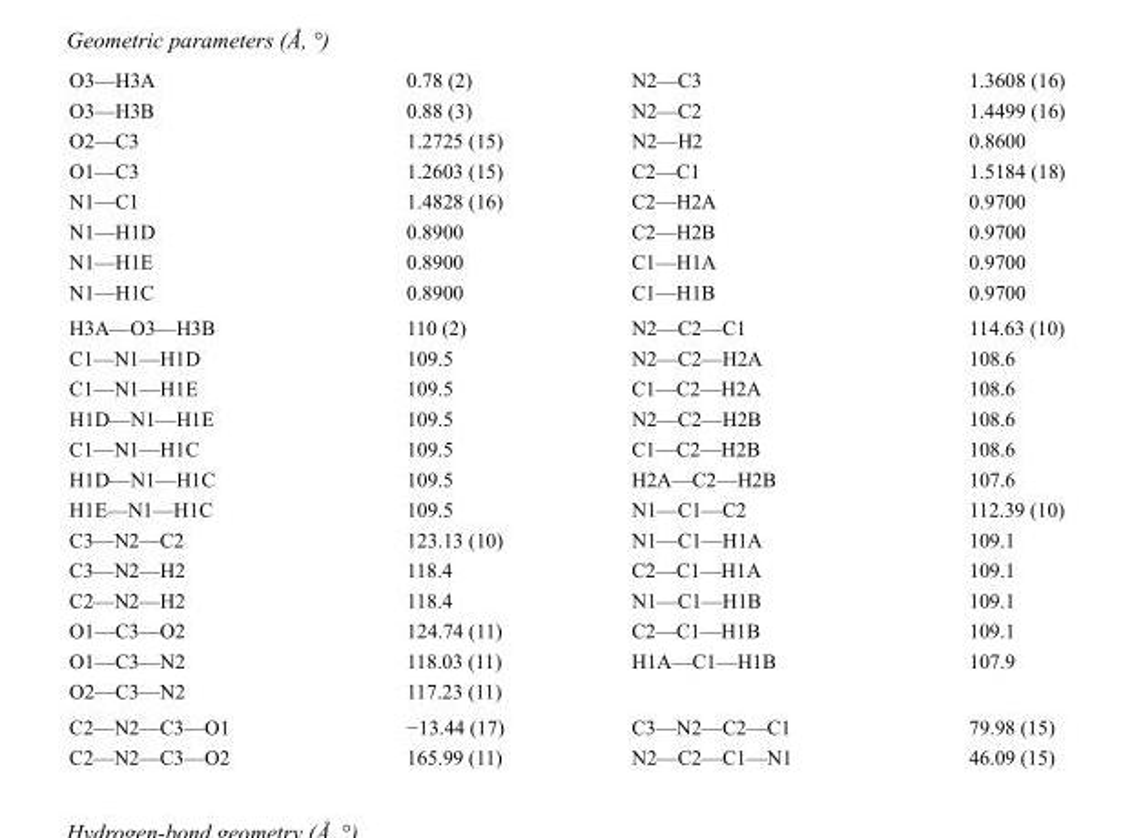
<table><tbody><tr><td>O3—H3A</td><td>0.78 (2)</td><td>N2—C3</td><td>1.3608 (16)</td></tr><tr><td>O3—H3B</td><td>0.88 (3)</td><td>N2—C2</td><td>1.4499 (16)</td></tr><tr><td>O2—C3</td><td>1.2725 (15)</td><td>N2—H2</td><td>0.8600</td></tr><tr><td>O1—C3</td><td>1.2603 (15)</td><td>C2—C1</td><td>1.5184 (18)</td></tr><tr><td>N1—C1</td><td>1.4828 (16)</td><td>C2—H2A</td><td>0.9700</td></tr><tr><td>N1—H1D</td><td>0.8900</td><td>C2—H2B</td><td>0.9700</td></tr><tr><td>N1—H1E</td><td>0.8900</td><td>C1—H1A</td><td>0.9700</td></tr><tr><td>N1—H1C</td><td>0.8900</td><td>C1—H1B</td><td>0.9700</td></tr><tr><td>H3A—O3—H3B</td><td>110 (2)</td><td>N2—C2—C1</td><td>114.63 (10)</td></tr><tr><td>C1—N1—H1D</td><td>109.5</td><td>N2—C2—H2A</td><td>108.6</td></tr><tr><td>C1—N1—H1E</td><td>109.5</td><td>C1—C2—H2A</td><td>108.6</td></tr><tr><td>H1D—N1—H1E</td><td>109.5</td><td>N2—C2—H2B</td><td>108.6</td></tr><tr><td>C1—N1—H1C</td><td>109.5</td><td>C1—C2—H2B</td><td>108.6</td></tr><tr><td>H1D—N1—H1C</td><td>109.5</td><td>H2A—C2—H2B</td><td>107.6</td></tr><tr><td>H1E—N1—H1C</td><td>109.5</td><td>N1—C1—C2</td><td>112.39 (10)</td></tr><tr><td>C3—N2—C2</td><td>123.13 (10)</td><td>N1—C1—H1A</td><td>109.1</td></tr><tr><td>C3—N2—H2</td><td>118.4</td><td>C2—C1—H1A</td><td>109.1</td></tr><tr><td>C2—N2—H2</td><td>118.4</td><td>N1—C1—H1B</td><td>109.1</td></tr><tr><td>O1—C3—O2</td><td>124.74 (11)</td><td>C2—C1—H1B</td><td>109.1</td></tr><tr><td>O1—C3—N2</td><td>118.03 (11)</td><td>H1A—C1—H1B</td><td>107.9</td></tr><tr><td>O2—C3—N2</td><td>117.23 (11)</td><td></td><td></td></tr><tr><td>C2—N2—C3—O1</td><td>−13.44 (17)</td><td>C3—N2—C2—C1</td><td>79.98 (15)</td></tr><tr><td>C2—N2—C3—O2</td><td>165.99 (11)</td><td>N2—C2—C1—N1</td><td>46.09 (15)</td></tr></tbody></table>